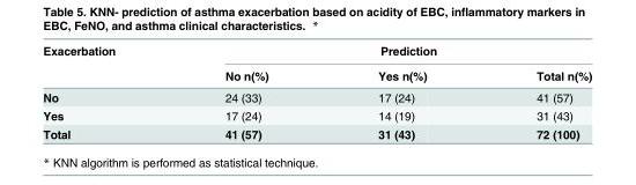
<table><thead><tr><td rowspan="2">Exacerbation</td><td colspan="3">Prediction</td></tr><tr><td>No n(%)</td><td>Yes n(%)</td><td>Total n(%)</td></tr></thead><tbody><tr><td>No</td><td>24 (33)</td><td>17 (24)</td><td>41 (57)</td></tr><tr><td>Yes</td><td>17 (24)</td><td>14 (19)</td><td>31 (43)</td></tr><tr><td>Total</td><td>41 (57)</td><td>31 (43)</td><td>72 (100)</td></tr></tbody></table>